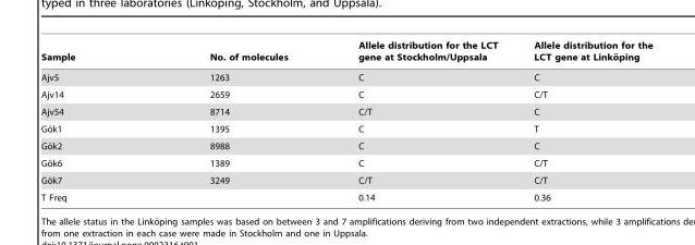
<table><thead><tr><td>Sample</td><td>No. of molecules</td><td>Allele distribution for the LCT gene at Stockholm/Uppsala</td><td>Allele distribution for the LCT gene at Linko¨ ping</td></tr></thead><tbody><tr><td>Ajv5</td><td>1263</td><td>C</td><td>C</td></tr><tr><td>Ajv14</td><td>2659</td><td>C</td><td>C/T</td></tr><tr><td>Ajv54</td><td>8714</td><td>C/T</td><td>C</td></tr><tr><td>Go¨k1</td><td>1395</td><td>C</td><td>T</td></tr><tr><td>Go¨k2</td><td>8988</td><td>C</td><td>C</td></tr><tr><td>Go¨k6</td><td>1389</td><td>C</td><td>C/T</td></tr><tr><td>Go¨k7</td><td>3249</td><td>C/T</td><td>C/T</td></tr><tr><td>T Freq</td><td></td><td>0.14</td><td>0.36</td></tr></tbody></table>